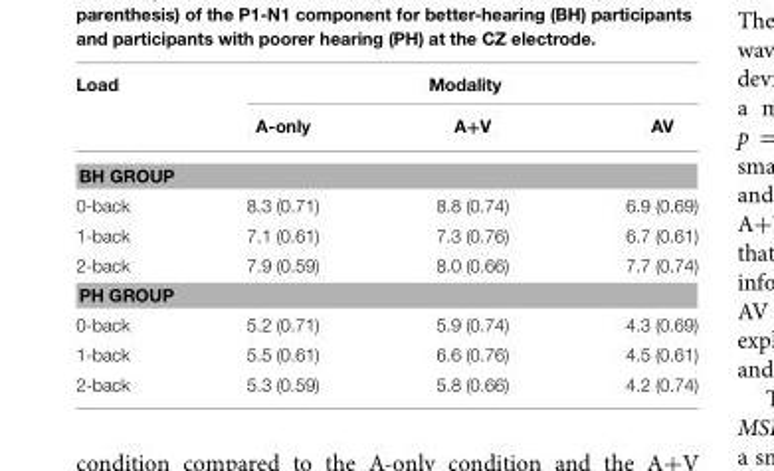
<table><thead><tr><td rowspan="2">Load</td><td colspan="3">Modality</td></tr><tr><td>A-only</td><td>A+V</td><td>AV</td></tr></thead><tbody><tr><td colspan="4">BH GROUP</td></tr><tr><td>0-back</td><td>8.3 (0.71)</td><td>8.8 (0.74)</td><td>6.9 (0.69)</td></tr><tr><td>1-back</td><td>7.1 (0.61)</td><td>7.3 (0.76)</td><td>6.7 (0.61)</td></tr><tr><td>2-back</td><td>7.9 (0.59)</td><td>8.0 (0.66)</td><td>7.7 (0.74)</td></tr><tr><td colspan="4">PH GROUP</td></tr><tr><td>0-back</td><td>5.2 (0.71)</td><td>5.9 (0.74)</td><td>4.3 (0.69)</td></tr><tr><td>1-back</td><td>5.5 (0.61)</td><td>6.6 (0.76)</td><td>4.5 (0.61)</td></tr><tr><td>2-back</td><td>5.3 (0.59)</td><td>5.8 (0.66)</td><td>4.2 (0.74)</td></tr></tbody></table>